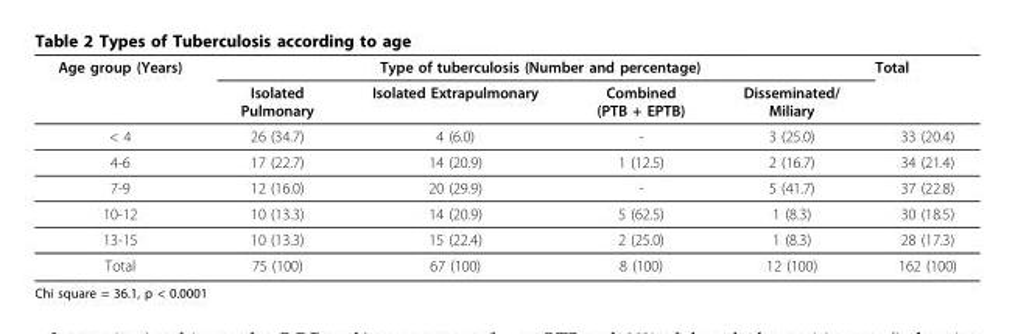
<table><thead><tr><td rowspan="2">Age group (Years)</td><td colspan="4">Type of tuberculosis (Number and percentage)</td><td rowspan="2">Total</td></tr><tr><td>Isolated Pulmonary</td><td>Isolated Extrapulmonary</td><td>Combined (PTB + EPTB)</td><td>Disseminated/ Miliary</td></tr></thead><tbody><tr><td>&lt; 4</td><td>26 (34.7)</td><td>4 (6.0)</td><td>-</td><td>3 (25.0)</td><td>33 (20.4)</td></tr><tr><td>4-6</td><td>17 (22.7)</td><td>14 (20.9)</td><td>1 (12.5)</td><td>2 (16.7)</td><td>34 (21.4)</td></tr><tr><td>7-9</td><td>12 (16.0)</td><td>20 (29.9)</td><td>-</td><td>5 (41.7)</td><td>37 (22.8)</td></tr><tr><td>10-12</td><td>10 (13.3)</td><td>14 (20.9)</td><td>5 (62.5)</td><td>1 (8.3)</td><td>30 (18.5)</td></tr><tr><td>13-15</td><td>10 (13.3)</td><td>15 (22.4)</td><td>2 (25.0)</td><td>1 (8.3)</td><td>28 (17.3)</td></tr><tr><td>Total</td><td>75 (100)</td><td>67 (100)</td><td>8 (100)</td><td>12 (100)</td><td>162 (100)</td></tr></tbody></table>